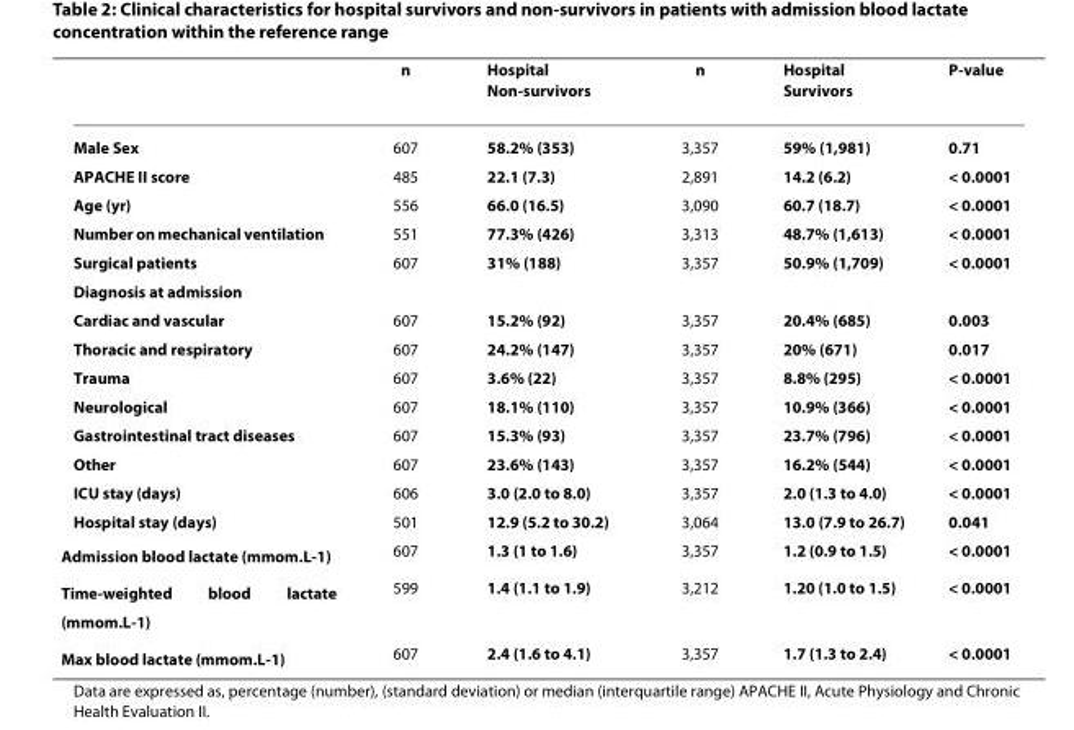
<table><thead><tr><td></td><td>n</td><td>Hospital Non-survivors</td><td>n</td><td>Hospital Survivors</td><td>P-value</td></tr></thead><tbody><tr><td>Male Sex</td><td>607</td><td>58.2% (353)</td><td>3,357</td><td>59% (1,981)</td><td>0.71</td></tr><tr><td>APACHE II score</td><td>485</td><td>22.1 (7.3)</td><td>2,891</td><td>14.2 (6.2)</td><td>&lt; 0.0001</td></tr><tr><td>Age (yr)</td><td>556</td><td>66.0 (16.5)</td><td>3,090</td><td>60.7 (18.7)</td><td>&lt; 0.0001</td></tr><tr><td>Number on mechanical ventilation</td><td>551</td><td>77.3% (426)</td><td>3,313</td><td>48.7% (1,613)</td><td>&lt; 0.0001</td></tr><tr><td>Surgical patients</td><td>607</td><td>31% (188)</td><td>3,357</td><td>50.9% (1,709)</td><td>&lt; 0.0001</td></tr><tr><td colspan="6">Diagnosis at admission</td></tr><tr><td>Cardiac and vascular</td><td>607</td><td>15.2% (92)</td><td>3,357</td><td>20.4% (685)</td><td>0.003</td></tr><tr><td>Thoracic and respiratory</td><td>607</td><td>24.2% (147)</td><td>3,357</td><td>20% (671)</td><td>0.017</td></tr><tr><td>Trauma</td><td>607</td><td>3.6% (22)</td><td>3,357</td><td>8.8% (295)</td><td>&lt; 0.0001</td></tr><tr><td>Neurological</td><td>607</td><td>18.1% (110)</td><td>3,357</td><td>10.9% (366)</td><td>&lt; 0.0001</td></tr><tr><td>Gastrointestinal tract diseases</td><td>607</td><td>15.3% (93)</td><td>3,357</td><td>23.7% (796)</td><td>&lt; 0.0001</td></tr><tr><td>Other</td><td>607</td><td>23.6% (143)</td><td>3,357</td><td>16.2% (544)</td><td>&lt; 0.0001</td></tr><tr><td>ICU stay (days)</td><td>606</td><td>3.0 (2.0 to 8.0)</td><td>3,357</td><td>2.0 (1.3 to 4.0)</td><td>&lt; 0.0001</td></tr><tr><td>Hospital stay (days)</td><td>501</td><td>12.9 (5.2 to 30.2)</td><td>3,064</td><td>13.0 (7.9 to 26.7)</td><td>0.041</td></tr><tr><td>Admission blood lactate (mmom.L<sup>-1</sup>)</td><td>607</td><td>1.3 (1 to 1.6)</td><td>3,357</td><td>1.2 (0.9 to 1.5)</td><td>&lt; 0.0001</td></tr><tr><td>Time-weighted blood lactate (mmom.L<sup>-1</sup>)</td><td>599</td><td>1.4 (1.1 to 1.9)</td><td>3,212</td><td>1.20 (1.0 to 1.5)</td><td>&lt; 0.0001</td></tr><tr><td>Max blood lactate (mmom.L<sup>-1</sup>)</td><td>607</td><td>2.4 (1.6 to 4.1)</td><td>3,357</td><td>1.7 (1.3 to 2.4)</td><td>&lt; 0.0001</td></tr></tbody></table>